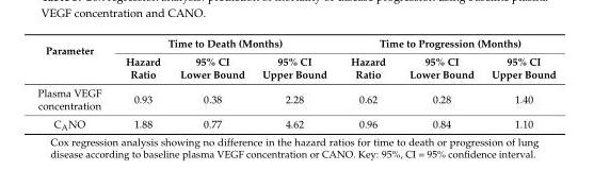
<table><thead><tr><td rowspan="2">Parameter</td><td colspan="3">Time to Death (Months)</td><td colspan="3">Time to Progression (Months)</td></tr><tr><td>Hazard Ratio</td><td>95% CI Lower Bound</td><td>95% CI Upper Bound</td><td>Hazard Ratio</td><td>95% CI Lower Bound</td><td>95% CI Upper Bound</td></tr></thead><tbody><tr><td>Plasma VEGF concentration</td><td>0.93</td><td>0.38</td><td>2.28</td><td>0.62</td><td>0.28</td><td>1.40</td></tr><tr><td>C<sub>A</sub>NO</td><td>1.88</td><td>0.77</td><td>4.62</td><td>0.96</td><td>0.84</td><td>1.10</td></tr></tbody></table>